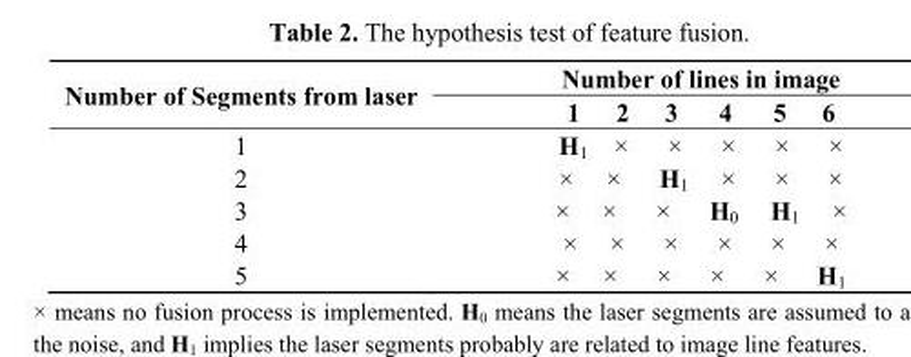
<table><thead><tr><td rowspan="2">Number of Segments from laser</td><td colspan="6">Number of lines in image</td></tr><tr><td>1</td><td>2</td><td>3</td><td>4</td><td>5</td><td>6</td></tr></thead><tbody><tr><td>1</td><td>H<sub>1</sub></td><td>×</td><td>×</td><td>×</td><td>×</td><td>×</td></tr><tr><td>2</td><td>×</td><td>×</td><td>H<sub>1</sub></td><td>×</td><td>×</td><td>×</td></tr><tr><td>3</td><td>×</td><td>×</td><td>×</td><td>H<sub>0</sub></td><td>H<sub>1</sub></td><td>×</td></tr><tr><td>4</td><td>×</td><td>×</td><td>×</td><td>×</td><td>×</td><td>×</td></tr><tr><td>5</td><td>×</td><td>×</td><td>×</td><td>×</td><td>×</td><td>H<sub>1</sub></td></tr></tbody></table>